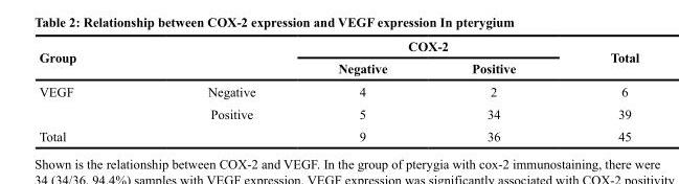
<table><thead><tr><td rowspan="2">Group</td><td rowspan="2"></td><td colspan="2">COX-2</td><td rowspan="2">Total</td></tr><tr><td>Negative</td><td>Positive</td></tr></thead><tbody><tr><td rowspan="2">VEGF</td><td>Negative</td><td>4</td><td>2</td><td>6</td></tr><tr><td>Positive</td><td>5</td><td>34</td><td>39</td></tr><tr><td>Total</td><td></td><td>9</td><td>36</td><td>45</td></tr></tbody></table>